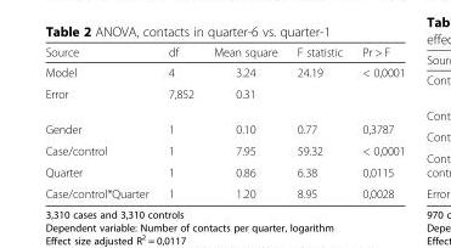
<table><thead><tr><td>Source</td><td>df</td><td>Mean square</td><td>F statistic</td><td>Pr &gt; F</td></tr></thead><tbody><tr><td>Model</td><td>4</td><td>3.24</td><td>24.19</td><td>&lt; 0,0001</td></tr><tr><td>Error</td><td>7,852</td><td>0.31</td><td></td><td></td></tr><tr><td>Gender</td><td>1</td><td>0.10</td><td>0.77</td><td>0,3787</td></tr><tr><td>Case/control</td><td>1</td><td>7.95</td><td>59.32</td><td>&lt; 0,0001</td></tr><tr><td>Quarter</td><td>1</td><td>0.86</td><td>6.38</td><td>0,0115</td></tr><tr><td>Case/control*Quarter</td><td>1</td><td>1.20</td><td>8.95</td><td>0,0028</td></tr></tbody></table>